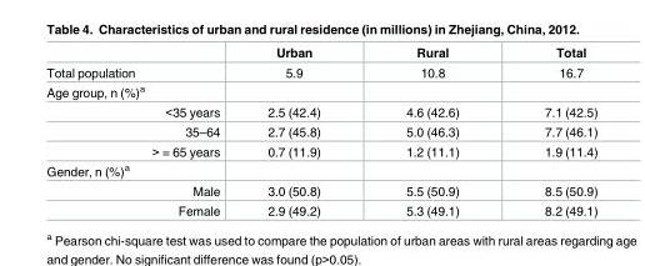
<table><thead><tr><td></td><td>Urban</td><td>Rural</td><td>Total</td></tr></thead><tbody><tr><td>Total population</td><td>5.9</td><td>10.8</td><td>16.7</td></tr><tr><td colspan="4">Age group, n (%)<sup>a</sup></td></tr><tr><td>&lt;35 years</td><td>2.5 (42.4)</td><td>4.6 (42.6)</td><td>7.1 (42.5)</td></tr><tr><td>35–64</td><td>2.7 (45.8)</td><td>5.0 (46.3)</td><td>7.7 (46.1)</td></tr><tr><td>&gt; = 65 years</td><td>0.7 (11.9)</td><td>1.2 (11.1)</td><td>1.9 (11.4)</td></tr><tr><td colspan="4">Gender, n (%)<sup>a</sup></td></tr><tr><td>Male</td><td>3.0 (50.8)</td><td>5.5 (50.9)</td><td>8.5 (50.9)</td></tr><tr><td>Female</td><td>2.9 (49.2)</td><td>5.3 (49.1)</td><td>8.2 (49.1)</td></tr></tbody></table>